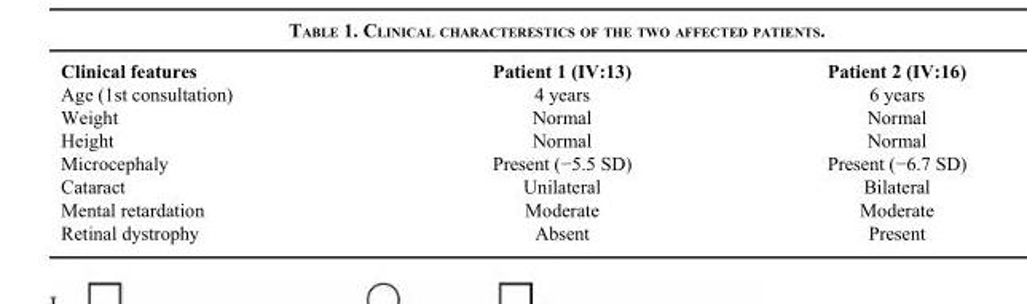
<table><thead><tr><td>Clinical features</td><td>Patient 1 (IV:13)</td><td>Patient 2 (IV:16)</td></tr></thead><tbody><tr><td>Age (1st consultation)</td><td>4 years</td><td>6 years</td></tr><tr><td>Weight</td><td>Normal</td><td>Normal</td></tr><tr><td>Height</td><td>Normal</td><td>Normal</td></tr><tr><td>Microcephaly</td><td>Present (−5.5 SD)</td><td>Present (−6.7 SD)</td></tr><tr><td>Cataract</td><td>Unilateral</td><td>Bilateral</td></tr><tr><td>Mental retardation</td><td>Moderate</td><td>Moderate</td></tr><tr><td>Retinal dystrophy</td><td>Absent</td><td>Present</td></tr></tbody></table>